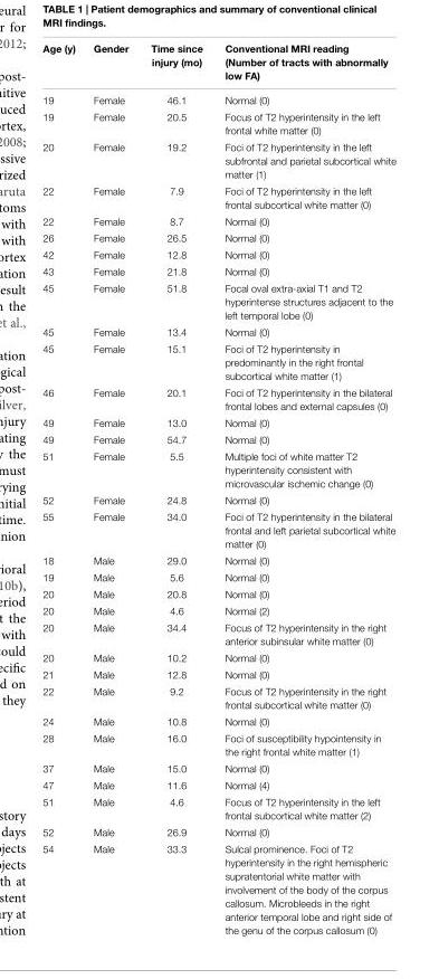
<table><thead><tr><td>Age (y)</td><td>Gender</td><td>Time since injury (mo)</td><td>Conventional MRI reading (Number of tracts with abnormally low FA)</td></tr></thead><tbody><tr><td>19</td><td>Female</td><td>46.1</td><td>Normal (0)</td></tr><tr><td>19</td><td>Female</td><td>20.5</td><td>Focus of T2 hyperintensity in the left frontal white matter (0)</td></tr><tr><td>20</td><td>Female</td><td>19.2</td><td>Foci of T2 hyperintensity in the left subfrontal and parietal subcortical white matter (1)</td></tr><tr><td>22</td><td>Female</td><td>7.9</td><td>Foci of T2 hyperintensity in the left frontal subcortical white matter (0)</td></tr><tr><td>22</td><td>Female</td><td>8.7</td><td>Normal (0)</td></tr><tr><td>26</td><td>Female</td><td>26.5</td><td>Normal (0)</td></tr><tr><td>42</td><td>Female</td><td>12.8</td><td>Normal (0)</td></tr><tr><td>43</td><td>Female</td><td>21.8</td><td>Normal (0)</td></tr><tr><td>45</td><td>Female</td><td>51.8</td><td>Focal oval extra-axial T1 and T2 hyperintense structures adjacent to the left temporal lobe (0)</td></tr><tr><td>45</td><td>Female</td><td>13.4</td><td>Normal (0)</td></tr><tr><td>45</td><td>Female</td><td>15.1</td><td>Foci of T2 hyperintensity in predominantly in the right frontal subcortical white matter (1)</td></tr><tr><td>46</td><td>Female</td><td>20.1</td><td>Foci of T2 hyperintensity in the bilateral frontal lobes and external capsules (0)</td></tr><tr><td>49</td><td>Female</td><td>13.0</td><td>Normal (0)</td></tr><tr><td>49</td><td>Female</td><td>54.7</td><td>Normal (0)</td></tr><tr><td>51</td><td>Female</td><td>5.5</td><td>Multiple foci of white matter T2 hyperintensity consistent with microvascular ischemic change (0)</td></tr><tr><td>52</td><td>Female</td><td>24.8</td><td>Normal (0)</td></tr><tr><td>55</td><td>Female</td><td>34.0</td><td>Foci of T2 hyperintensity in the bilateral frontal and left parietal subcortical white matter (0)</td></tr><tr><td>18</td><td>Male</td><td>29.0</td><td>Normal (0)</td></tr><tr><td>19</td><td>Male</td><td>5.6</td><td>Normal (0)</td></tr><tr><td>20</td><td>Male</td><td>20.8</td><td>Normal (0)</td></tr><tr><td>20</td><td>Male</td><td>4.6</td><td>Normal (2)</td></tr><tr><td>20</td><td>Male</td><td>34.4</td><td>Focus of T2 hyperintensity in the right anterior subinsular white matter (0)</td></tr><tr><td>20</td><td>Male</td><td>10.2</td><td>Normal (0)</td></tr><tr><td>21</td><td>Male</td><td>12.8</td><td>Normal (0)</td></tr><tr><td>22</td><td>Male</td><td>9.2</td><td>Focus of T2 hyperintensity in the right frontal subcortical white matter (0)</td></tr><tr><td>24</td><td>Male</td><td>10.8</td><td>Normal (0)</td></tr><tr><td>28</td><td>Male</td><td>16.0</td><td>Foci of susceptibility hypointensity in the right frontal white matter (1)</td></tr><tr><td>37</td><td>Male</td><td>15.0</td><td>Normal (0)</td></tr><tr><td>47</td><td>Male</td><td>11.6</td><td>Normal (4)</td></tr><tr><td>51</td><td>Male</td><td>4.6</td><td>Focus of T2 hyperintensity in the left frontal subcortical white matter (2)</td></tr><tr><td>52</td><td>Male</td><td>26.9</td><td>Normal (0)</td></tr><tr><td>54</td><td>Male</td><td>33.3</td><td>Sulcal prominence. Foci of T2 hyperintensity in the right hemispheric supratentorial white matter with involvement of the body of the corpus callosum. Microbleeds in the right anterior temporal lobe and right side of the genu of the corpus callosum (0)</td></tr></tbody></table>